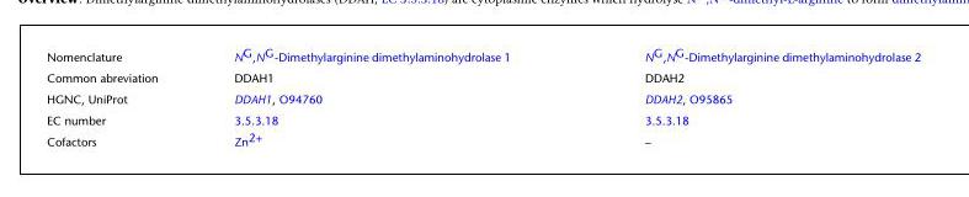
<table><tbody><tr><td>Nomenclature</td><td>N<sup>G</sup>,N<sup>G</sup>-Dimethylarginine dimethylaminohydrolase 1</td><td>N<sup>G</sup>,N<sup>G</sup>-Dimethylarginine dimethylaminohydrolase 2</td></tr><tr><td>Common abreviation</td><td>DDAH1</td><td>DDAH2</td></tr><tr><td>HGNC, UniProt</td><td>DDAH1, O94760</td><td>DDAH2, O95865</td></tr><tr><td>EC number</td><td>3.5.3.18</td><td>3.5.3.18</td></tr><tr><td>Cofactors</td><td>Zn<sup>2+</sup></td><td>–</td></tr></tbody></table>